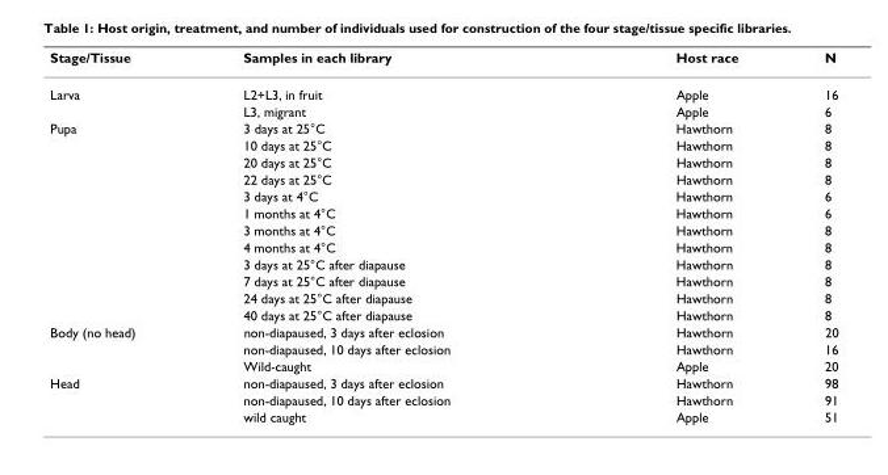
<table><thead><tr><td>Stage/Tissue</td><td>Samples in each library</td><td>Host race</td><td>N</td></tr></thead><tbody><tr><td rowspan="2">Larva</td><td>L2+L3, in fruit</td><td>Apple</td><td>16</td></tr><tr><td>L3, migrant</td><td>Apple</td><td>6</td></tr><tr><td rowspan="12">Pupa</td><td>3 days at 25°C</td><td>Hawthorn</td><td>8</td></tr><tr><td>10 days at 25°C</td><td>Hawthorn</td><td>8</td></tr><tr><td>20 days at 25°C</td><td>Hawthorn</td><td>8</td></tr><tr><td>22 days at 25°C</td><td>Hawthorn</td><td>8</td></tr><tr><td>3 days at 4°C</td><td>Hawthorn</td><td>6</td></tr><tr><td>1 months at 4°C</td><td>Hawthorn</td><td>6</td></tr><tr><td>3 months at 4°C</td><td>Hawthorn</td><td>8</td></tr><tr><td>4 months at 4°C</td><td>Hawthorn</td><td>8</td></tr><tr><td>3 days at 25°C after diapause</td><td>Hawthorn</td><td>8</td></tr><tr><td>7 days at 25°C after diapause</td><td>Hawthorn</td><td>8</td></tr><tr><td>24 days at 25°C after diapause</td><td>Hawthorn</td><td>8</td></tr><tr><td>40 days at 25°C after diapause</td><td>Hawthorn</td><td>8</td></tr><tr><td rowspan="3">Body (no head)</td><td>non-diapaused, 3 days after eclosion</td><td>Hawthorn</td><td>20</td></tr><tr><td>non-diapaused, 10 days after eclosion</td><td>Hawthorn</td><td>16</td></tr><tr><td>Wild-caught</td><td>Apple</td><td>20</td></tr><tr><td rowspan="3">Head</td><td>non-diapaused, 3 days after eclosion</td><td>Hawthorn</td><td>98</td></tr><tr><td>non-diapaused, 10 days after eclosion</td><td>Hawthorn</td><td>91</td></tr><tr><td>wild caught</td><td>Apple</td><td>51</td></tr></tbody></table>